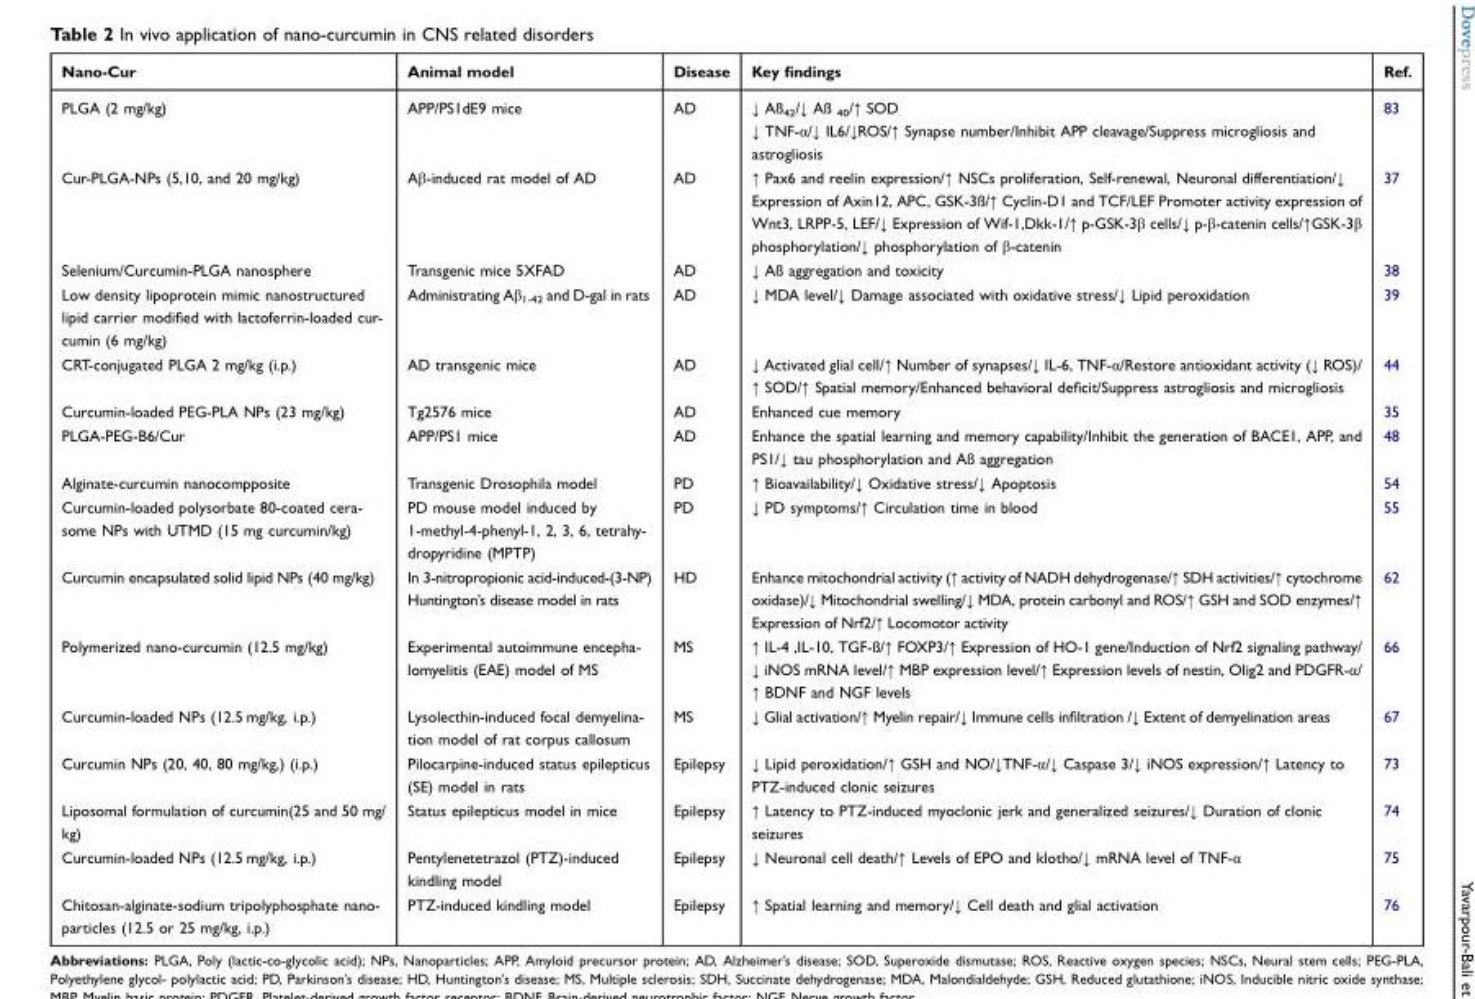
<table><thead><tr><td>Nano-Cur</td><td>Animal model</td><td>Disease</td><td>Key findings</td><td>Ref.</td></tr></thead><tbody><tr><td>PLGA (2 mg/kg)</td><td>APP/PS1dE9 mice</td><td>AD</td><td>↓ Aß<sub>42</sub>/↓ Aß <sub>40</sub>/↑ SOD ↓ TNF-α/↓ IL6/↓ROS/↑ Synapse number/Inhibit APP cleavage/Suppress microgliosis and astrogliosis</td><td>83</td></tr><tr><td>Cur-PLGA-NPs (5,10, and 20 mg/kg)</td><td>Aβ-induced rat model of AD</td><td>AD</td><td>↑ Pax6 and reelin expression/↑ NSCs proliferation, Self-renewal, Neuronal differentiation/↓ Expression of Axin12, APC, GSK-3ß/↑ Cyclin-D1 and TCF/LEF Promoter activity expression of Wnt3, LRPP-5, LEF/↓ Expression of Wif-1,Dkk-1/↑ p-GSK-3β cells/↓ p-β-catenin cells/↑GSK-3β phosphorylation/↓ phosphorylation of β-catenin</td><td>37</td></tr><tr><td>Selenium/Curcumin-PLGA nanosphere</td><td>Transgenic mice 5XFAD</td><td>AD</td><td>↓ Aß aggregation and toxicity</td><td>38</td></tr><tr><td>Low density lipoprotein mimic nanostructured lipid carrier modified with lactoferrin-loaded cur- cumin (6 mg/kg)</td><td>Administrating Aβ<sub>1-42</sub> and D-gal in rats</td><td>AD</td><td>↓ MDA level/↓ Damage associated with oxidative stress/↓ Lipid peroxidation</td><td>39</td></tr><tr><td>CRT-conjugated PLGA 2 mg/kg (i.p.)</td><td>AD transgenic mice</td><td>AD</td><td>↓ Activated glial cell/↑ Number of synapses/↓ IL-6, TNF-α/Restore antioxidant activity (↓ ROS)/ ↑ SOD/↑ Spatial memory/Enhanced behavioral deficit/Suppress astrogliosis and microgliosis</td><td>44</td></tr><tr><td>Curcumin-loaded PEG-PLA NPs (23 mg/kg)</td><td>Tg2576 mice</td><td>AD</td><td>Enhanced cue memory</td><td>35</td></tr><tr><td>PLGA-PEG-B6/Cur</td><td>APP/PS1 mice</td><td>AD</td><td>Enhance the spatial learning and memory capability/Inhibit the generation of BACE1, APP, and PS1/↓ tau phosphorylation and Aß aggregation</td><td>48</td></tr><tr><td>Alginate-curcumin nanocompposite</td><td>Transgenic Drosophila model</td><td>PD</td><td>↑ Bioavailability/↓ Oxidative stress/↓ Apoptosis</td><td>54</td></tr><tr><td>Curcumin-loaded polysorbate 80-coated cera- some NPs with UTMD (15 mg curcumin/kg)</td><td>PD mouse model induced by 1-methyl-4-phenyl-1, 2, 3, 6, tetrahy- dropyridine (MPTP)</td><td>PD</td><td>↓ PD symptoms/↑ Circulation time in blood</td><td>55</td></tr><tr><td>Curcumin encapsulated solid lipid NPs (40 mg/kg)</td><td>In 3-nitropropionic acid-induced-(3-NP) Huntington’s disease model in rats</td><td>HD</td><td>Enhance mitochondrial activity (↑ activity of NADH dehydrogenase/↑ SDH activities/↑ cytochrome oxidase)/↓ Mitochondrial swelling/↓ MDA, protein carbonyl and ROS/↑ GSH and SOD enzymes/↑ Expression of Nrf2/↑ Locomotor activity</td><td>62</td></tr><tr><td>Polymerized nano-curcumin (12.5 mg/kg)</td><td>Experimental autoimmune encepha- lomyelitis (EAE) model of MS</td><td>MS</td><td>↑ IL-4 ‚IL-10‚ TGF-ß/↑ FOXP3/↑ Expression of HO-1 gene/Induction of Nrf2 signaling pathway/ ↓ iNOS mRNA level/↑ MBP expression level/↑ Expression levels of nestin, Olig2 and PDGFR-α/ ↑ BDNF and NGF levels</td><td>66</td></tr><tr><td>Curcumin-loaded NPs (12.5 mg/kg, i.p.)</td><td>Lysolecthin-induced focal demyelina- tion model of rat corpus callosum</td><td>MS</td><td>↓ Glial activation/↑ Myelin repair/↓ Immune cells infiltration /↓ Extent of demyelination areas</td><td>67</td></tr><tr><td>Curcumin NPs (20, 40, 80 mg/kg,) (i.p.)</td><td>Pilocarpine-induced status epilepticus (SE) model in rats</td><td>Epilepsy</td><td>↓ Lipid peroxidation/↑ GSH and NO/↓TNF-α/↓ Caspase 3/↓ iNOS expression/↑ Latency to PTZ-induced clonic seizures</td><td>73</td></tr><tr><td>Liposomal formulation of curcumin(25 and 50 mg/ kg)</td><td>Status epilepticus model in mice</td><td>Epilepsy</td><td>↑ Latency to PTZ-induced myoclonic jerk and generalized seizures/↓ Duration of clonic seizures</td><td>74</td></tr><tr><td>Curcumin-loaded NPs (12.5 mg/kg, i.p.)</td><td>Pentylenetetrazol (PTZ)-induced kindling model</td><td>Epilepsy</td><td>↓ Neuronal cell death/↑ Levels of EPO and klotho/↓ mRNA level of TNF-α</td><td>75</td></tr><tr><td>Chitosan-alginate-sodium tripolyphosphate nano- particles (12.5 or 25 mg/kg, i.p.)</td><td>PTZ-induced kindling model</td><td>Epilepsy</td><td>↑ Spatial learning and memory/↓ Cell death and glial activation</td><td>76</td></tr></tbody></table>